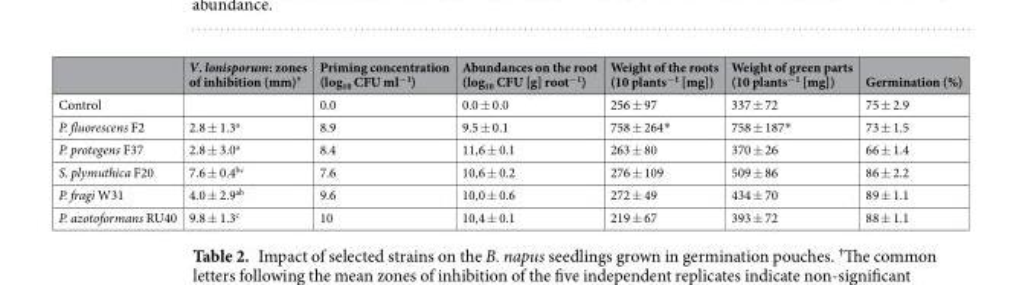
<table><thead><tr><td></td><td>V. lonisporum: zones of inhibition (mm)<sup>†</sup></td><td>Priming concentration (log<sub>10</sub> CFU ml<sup>−1</sup>)</td><td>Abundances on the root (log<sub>10</sub> CFU [g] root<sup>−1</sup>)</td><td>Weight of the roots (10 plants<sup>−1</sup> [mg])</td><td>Weight of green parts (10 plants<sup>−1</sup> [mg])</td><td>Germination (%)</td></tr></thead><tbody><tr><td>Control</td><td></td><td>0.0</td><td>0.0 ± 0.0</td><td>256 ± 97</td><td>337 ± 72</td><td>75 ± 2.9</td></tr><tr><td>P. fluorescens F2</td><td>2.8 ± 1.3<sup>a</sup></td><td>8.9</td><td>9.5 ± 0.1</td><td>758 ± 264*</td><td>758 ± 187*</td><td>73 ± 1.5</td></tr><tr><td>P. protegens F37</td><td>2.8 ± 3.0<sup>a</sup></td><td>8.4</td><td>11,6 ± 0.1</td><td>263 ± 80</td><td>370 ± 26</td><td>66 ± 1.4</td></tr><tr><td>S. plymuthica F20</td><td>7.6 ± 0.4<sup>bc</sup></td><td>7.6</td><td>10,6 ± 0.2</td><td>276 ± 109</td><td>509 ± 86</td><td>86 ± 2.2</td></tr><tr><td>P. fragi W31</td><td>4.0 ± 2.9<sup>ab</sup></td><td>9.6</td><td>10,0 ± 0.6</td><td>272 ± 49</td><td>434 ± 70</td><td>89 ± 1.1</td></tr><tr><td>P. azotoformans RU40</td><td>9.8 ± 1.3<sup>c</sup></td><td>10</td><td>10,4 ± 0.1</td><td>219 ± 67</td><td>393 ± 72</td><td>88 ± 1.1</td></tr></tbody></table>